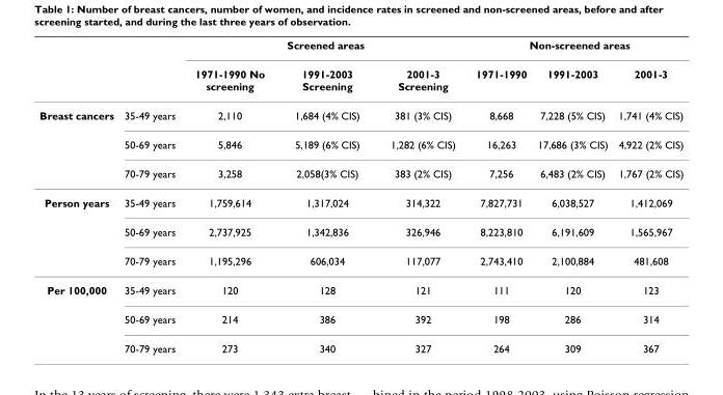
<table><thead><tr><td rowspan="2"></td><td rowspan="2"></td><td colspan="3">Screened areas</td><td colspan="3">Non-screened areas</td></tr><tr><td>1971-1990 No screening</td><td>1991-2003 Screening</td><td>2001-3 Screening</td><td>1971-1990</td><td>1991-2003</td><td>2001-3</td></tr></thead><tbody><tr><td rowspan="3">Breast cancers</td><td>35-49 years</td><td>2,110</td><td>1,684 (4% CIS)</td><td>381 (3% CIS)</td><td>8,668</td><td>7,228 (5% CIS)</td><td>1,741 (4% CIS)</td></tr><tr><td>50-69 years</td><td>5,846</td><td>5,189 (6% CIS)</td><td>1,282 (6% CIS)</td><td>16,263</td><td>17,686 (3% CIS)</td><td>4,922 (2% CIS)</td></tr><tr><td>70-79 years</td><td>3,258</td><td>2,058(3% CIS)</td><td>383 (2% CIS)</td><td>7,256</td><td>6,483 (2% CIS)</td><td>1,767 (2% CIS)</td></tr><tr><td rowspan="3">Person years</td><td>35-49 years</td><td>1,759,614</td><td>1,317,024</td><td>314,322</td><td>7,827,731</td><td>6,038,527</td><td>1,412,069</td></tr><tr><td>50-69 years</td><td>2,737,925</td><td>1,342,836</td><td>326,946</td><td>8,223,810</td><td>6,191,609</td><td>1,565,967</td></tr><tr><td>70-79 years</td><td>1,195,296</td><td>606,034</td><td>117,077</td><td>2,743,410</td><td>2,100,884</td><td>481,608</td></tr><tr><td rowspan="3">Per 100,000</td><td>35-49 years</td><td>120</td><td>128</td><td>121</td><td>111</td><td>120</td><td>123</td></tr><tr><td>50-69 years</td><td>214</td><td>386</td><td>392</td><td>198</td><td>286</td><td>314</td></tr><tr><td>70-79 years</td><td>273</td><td>340</td><td>327</td><td>264</td><td>309</td><td>367</td></tr></tbody></table>